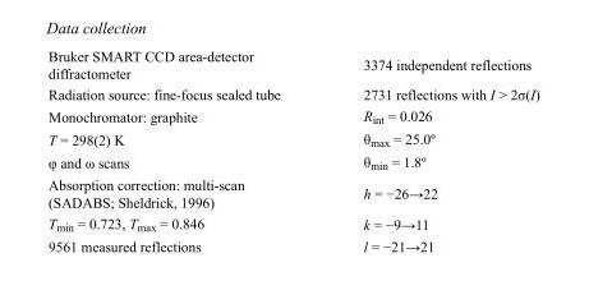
<table><tbody><tr><td>Bruker SMART CCD area-detector diffractometer</td><td>3374 independent reflections</td></tr><tr><td>Radiation source: fine-focus sealed tube</td><td>2731 reflections with I &gt; 2σ(I)</td></tr><tr><td>Monochromator: graphite</td><td>R<sub>int</sub> = 0.026</td></tr><tr><td>T = 298(2) K</td><td>θ<sub>max</sub> = 25.0º</td></tr><tr><td>φ and ω scans</td><td>θ<sub>min</sub> = 1.8º</td></tr><tr><td>Absorption correction: multi-scan (SADABS; Sheldrick, 1996)</td><td>h = −26→22</td></tr><tr><td>T<sub>min</sub> = 0.723, T<sub>max</sub> = 0.846</td><td>k = −9→11</td></tr><tr><td>9561 measured reflections</td><td>l = −21→21</td></tr></tbody></table>